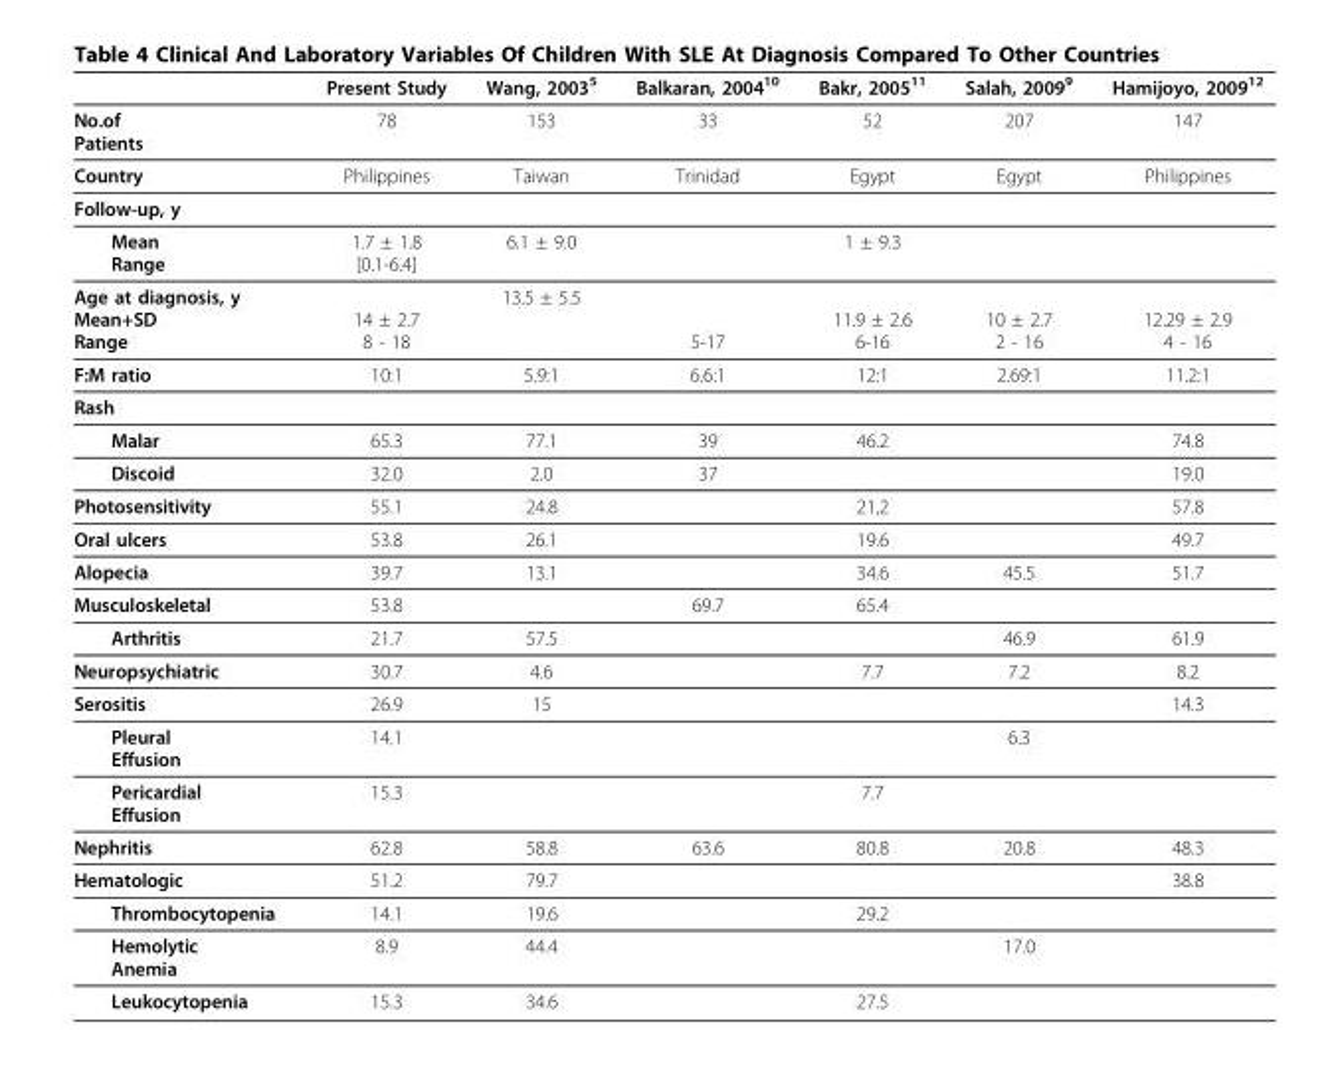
<table><thead><tr><td></td><td>Present Study</td><td>Wang, 2003<sup>5</sup></td><td>Balkaran, 2004<sup>10</sup></td><td>Bakr, 2005<sup>11</sup></td><td>Salah, 2009<sup>9</sup></td><td>Hamijoyo, 2009<sup>12</sup></td></tr></thead><tbody><tr><td>No.of Patients</td><td>78</td><td>153</td><td>33</td><td>52</td><td>207</td><td>147</td></tr><tr><td>Country</td><td>Philippines</td><td>Taiwan</td><td>Trinidad</td><td>Egypt</td><td>Egypt</td><td>Philippines</td></tr><tr><td colspan="7">Follow-up, y</td></tr><tr><td>Mean Range</td><td>1.7 ± 1.8 [0.1-6.4]</td><td>6.1 ± 9.0</td><td></td><td>1 ± 9.3</td><td></td><td></td></tr><tr><td>Age at diagnosis, y Mean+SD Range</td><td>14 ± 2.7 8 - 18</td><td>13.5 ± 5.5</td><td>5-17</td><td>11.9 ± 2.6 6-16</td><td>10 ± 2.7 2 - 16</td><td>12.29 ± 2.9 4 - 16</td></tr><tr><td>F:M ratio</td><td>10:1</td><td>5.9:1</td><td>6.6:1</td><td>12:1</td><td>2.69:1</td><td>11.2:1</td></tr><tr><td colspan="7">Rash</td></tr><tr><td>Malar</td><td>65.3</td><td>77.1</td><td>39</td><td>46.2</td><td></td><td>74.8</td></tr><tr><td>Discoid</td><td>32.0</td><td>2.0</td><td>37</td><td></td><td></td><td>19.0</td></tr><tr><td>Photosensitivity</td><td>55.1</td><td>24.8</td><td></td><td>21,2</td><td></td><td>57.8</td></tr><tr><td>Oral ulcers</td><td>53.8</td><td>26.1</td><td></td><td>19.6</td><td></td><td>49.7</td></tr><tr><td>Alopecia</td><td>39.7</td><td>13.1</td><td></td><td>34.6</td><td>45.5</td><td>51.7</td></tr><tr><td>Musculoskeletal</td><td>53.8</td><td></td><td>69.7</td><td>65.4</td><td></td><td></td></tr><tr><td>Arthritis</td><td>21.7</td><td>57.5</td><td></td><td></td><td>46.9</td><td>61.9</td></tr><tr><td>Neuropsychiatric</td><td>30.7</td><td>4.6</td><td></td><td>7.7</td><td>7.2</td><td>8.2</td></tr><tr><td>Serositis</td><td>26.9</td><td>15</td><td></td><td></td><td></td><td>14.3</td></tr><tr><td>Pleural Effusion</td><td>14.1</td><td></td><td></td><td></td><td>6.3</td><td></td></tr><tr><td>Pericardial Effusion</td><td>15.3</td><td></td><td></td><td>7.7</td><td></td><td></td></tr><tr><td>Nephritis</td><td>62.8</td><td>58.8</td><td>63.6</td><td>80.8</td><td>20.8</td><td>48.3</td></tr><tr><td>Hematologic</td><td>51.2</td><td>79.7</td><td></td><td></td><td></td><td>38.8</td></tr><tr><td>Thrombocytopenia</td><td>14.1</td><td>19.6</td><td></td><td>29.2</td><td></td><td></td></tr><tr><td>Hemolytic Anemia</td><td>8.9</td><td>44.4</td><td></td><td></td><td>17.0</td><td></td></tr><tr><td>Leukocytopenia</td><td>15.3</td><td>34.6</td><td></td><td>27.5</td><td></td><td></td></tr></tbody></table>